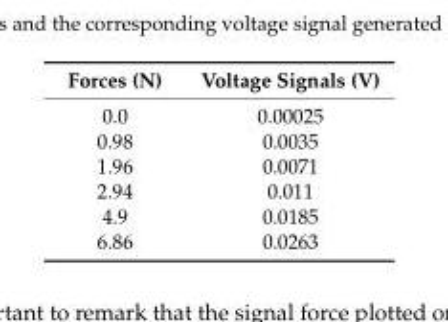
<table><thead><tr><td>Forces (N)</td><td>Voltage Signals (V)</td></tr></thead><tbody><tr><td>0.0</td><td>0.00025</td></tr><tr><td>0.98</td><td>0.0035</td></tr><tr><td>1.96</td><td>0.0071</td></tr><tr><td>2.94</td><td>0.011</td></tr><tr><td>4.9</td><td>0.0185</td></tr><tr><td>6.86</td><td>0.0263</td></tr></tbody></table>